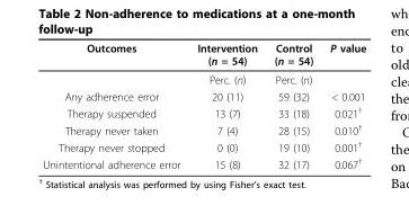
<table><thead><tr><td>Outcomes</td><td>Intervention (n = 54)</td><td>Control (n = 54)</td><td>P value</td></tr></thead><tbody><tr><td></td><td>Perc. (n)</td><td>Perc. (n)</td><td></td></tr><tr><td>Any adherence error</td><td>20 (11)</td><td>59 (32)</td><td>&lt; 0.001</td></tr><tr><td>Therapy suspended</td><td>13 (7)</td><td>33 (18)</td><td>0.021<sup>†</sup></td></tr><tr><td>Therapy never taken</td><td>7 (4)</td><td>28 (15)</td><td>0.010<sup>†</sup></td></tr><tr><td>Therapy never stopped</td><td>0 (0)</td><td>19 (10)</td><td>0.001<sup>†</sup></td></tr><tr><td>Unintentional adherence error</td><td>15 (8)</td><td>32 (17)</td><td>0.067<sup>†</sup></td></tr></tbody></table>